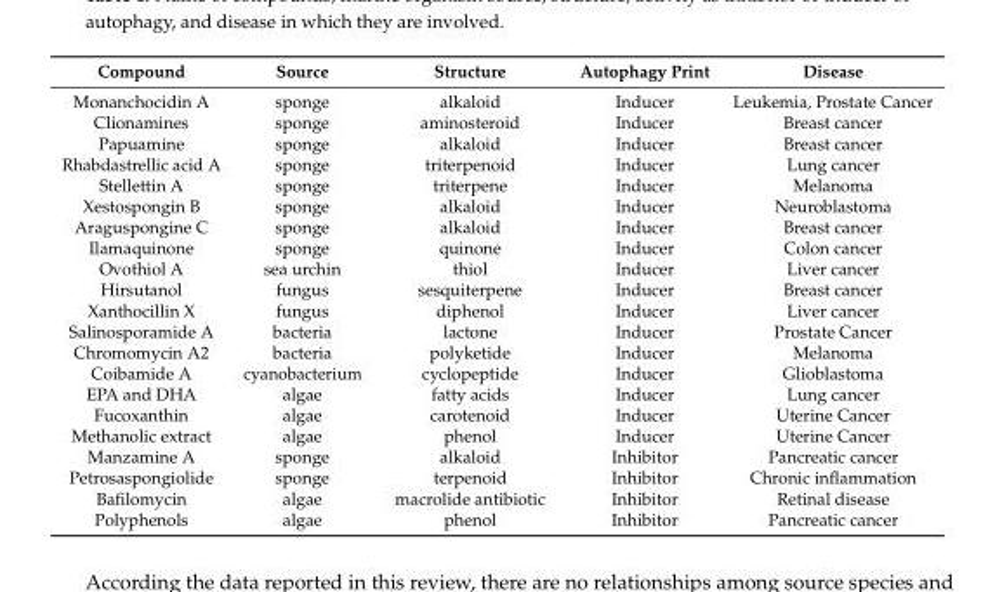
<table><thead><tr><td>Compound</td><td>Source</td><td>Structure</td><td>Autophagy Print</td><td>Disease</td></tr></thead><tbody><tr><td>Monanchocidin A</td><td>sponge</td><td>alkaloid</td><td>Inducer</td><td>Leukemia, Prostate Cancer</td></tr><tr><td>Clionamines</td><td>sponge</td><td>aminosteroid</td><td>Inducer</td><td>Breast cancer</td></tr><tr><td>Papuamine</td><td>sponge</td><td>alkaloid</td><td>Inducer</td><td>Breast cancer</td></tr><tr><td>Rhabdastrellic acid A</td><td>sponge</td><td>triterpenoid</td><td>Inducer</td><td>Lung cancer</td></tr><tr><td>Stellettin A</td><td>sponge</td><td>triterpene</td><td>Inducer</td><td>Melanoma</td></tr><tr><td>Xestospongin B</td><td>sponge</td><td>alkaloid</td><td>Inducer</td><td>Neuroblastoma</td></tr><tr><td>Araguspongine C</td><td>sponge</td><td>alkaloid</td><td>Inducer</td><td>Breast cancer</td></tr><tr><td>Ilamaquinone</td><td>sponge</td><td>quinone</td><td>Inducer</td><td>Colon cancer</td></tr><tr><td>Ovothiol A</td><td>sea urchin</td><td>thiol</td><td>Inducer</td><td>Liver cancer</td></tr><tr><td>Hirsutanol</td><td>fungus</td><td>sesquiterpene</td><td>Inducer</td><td>Breast cancer</td></tr><tr><td>Xanthocillin X</td><td>fungus</td><td>diphenol</td><td>Inducer</td><td>Liver cancer</td></tr><tr><td>Salinosporamide A</td><td>bacteria</td><td>lactone</td><td>Inducer</td><td>Prostate Cancer</td></tr><tr><td>Chromomycin A2</td><td>bacteria</td><td>polyketide</td><td>Inducer</td><td>Melanoma</td></tr><tr><td>Coibamide A</td><td>cyanobacterium</td><td>cyclopeptide</td><td>Inducer</td><td>Glioblastoma</td></tr><tr><td>EPA and DHA</td><td>algae</td><td>fatty acids</td><td>Inducer</td><td>Lung cancer</td></tr><tr><td>Fucoxanthin</td><td>algae</td><td>carotenoid</td><td>Inducer</td><td>Uterine Cancer</td></tr><tr><td>Methanolic extract</td><td>algae</td><td>phenol</td><td>Inducer</td><td>Uterine Cancer</td></tr><tr><td>Manzamine A</td><td>sponge</td><td>alkaloid</td><td>Inhibitor</td><td>Pancreatic cancer</td></tr><tr><td>Petrosaspongiolide</td><td>sponge</td><td>terpenoid</td><td>Inhibitor</td><td>Chronic inflammation</td></tr><tr><td>Bafilomycin</td><td>algae</td><td>macrolide antibiotic</td><td>Inhibitor</td><td>Retinal disease</td></tr><tr><td>Polyphenols</td><td>algae</td><td>phenol</td><td>Inhibitor</td><td>Pancreatic cancer</td></tr></tbody></table>